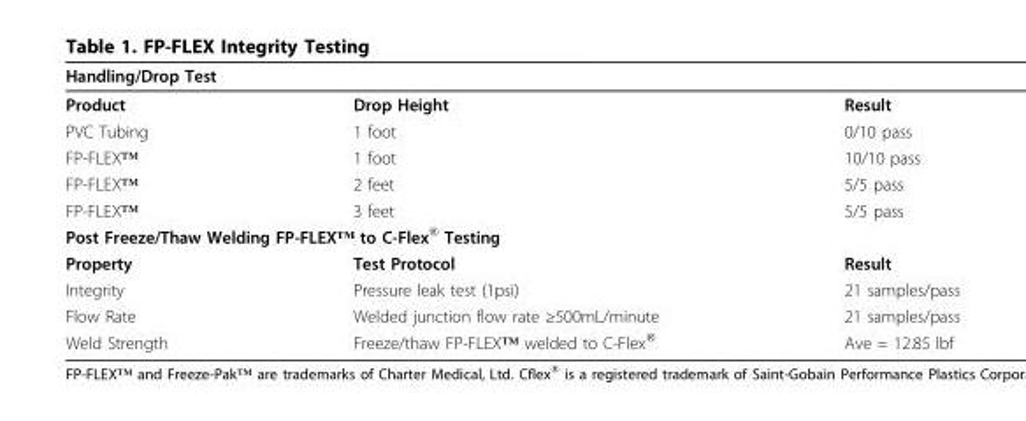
<table><thead><tr><td colspan="3">Handling/Drop Test</td></tr><tr><td>Product</td><td>Drop Height</td><td>Result</td></tr></thead><tbody><tr><td>PVC Tubing</td><td>1 foot</td><td>0/10 pass</td></tr><tr><td>FP-FLEX™</td><td>1 foot</td><td>10/10 pass</td></tr><tr><td>FP-FLEX™</td><td>2 feet</td><td>5/5 pass</td></tr><tr><td>FP-FLEX™</td><td>3 feet</td><td>5/5 pass</td></tr><tr><td colspan="3">Post Freeze/Thaw Welding FP-FLEX™ to C-Flex® Testing</td></tr><tr><td>Property</td><td>Test Protocol</td><td>Result</td></tr><tr><td>Integrity</td><td>Pressure leak test (1psi)</td><td>21 samples/pass</td></tr><tr><td>Flow Rate</td><td>Welded junction flow rate ≥500mL/minute</td><td>21 samples/pass</td></tr><tr><td>Weld Strength</td><td>Freeze/thaw FP-FLEX™ welded to C-Flex®</td><td>Ave = 12.85 lbf</td></tr></tbody></table>